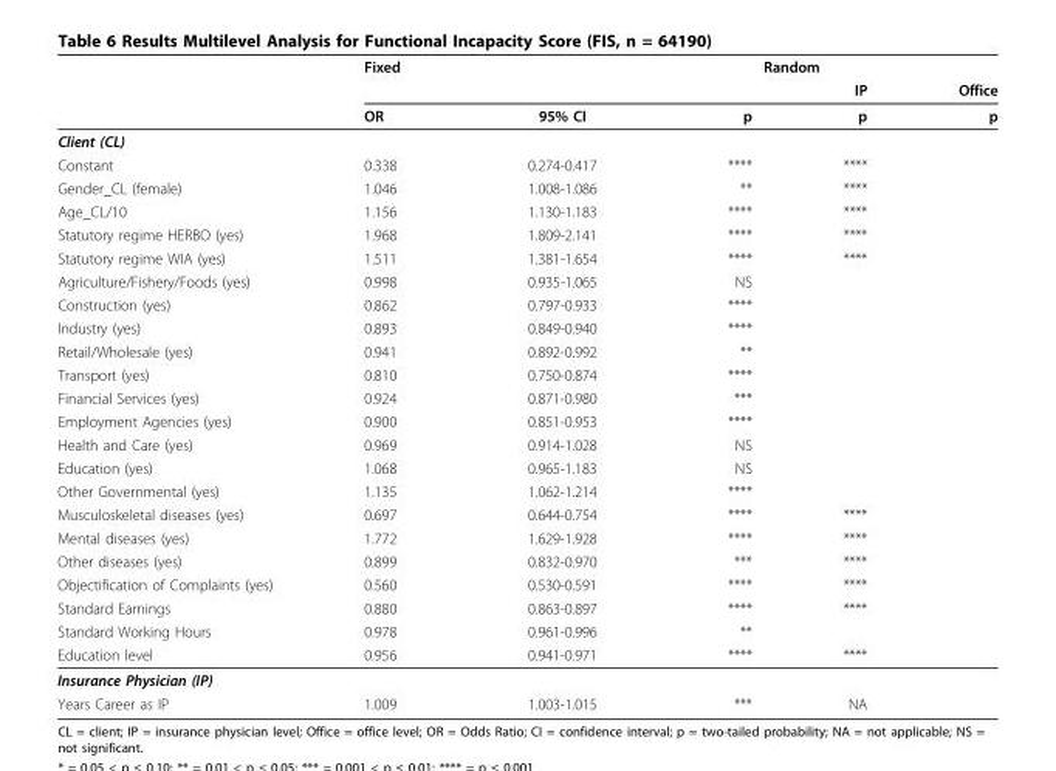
<table><thead><tr><td rowspan="3"></td><td colspan="3">Fixed</td><td colspan="2">Random</td></tr><tr><td rowspan="2">OR</td><td rowspan="2">95% CI</td><td rowspan="2">p</td><td rowspan="2">IP p</td><td rowspan="2">Office p</td></tr><tr></tr></thead><tbody><tr><td colspan="6">Client (CL)</td></tr><tr><td>Constant</td><td>0.338</td><td>0.274-0.417</td><td>****</td><td>****</td><td></td></tr><tr><td>Gender_CL (female)</td><td>1.046</td><td>1.008-1.086</td><td>**</td><td>****</td><td></td></tr><tr><td>Age_CL/10</td><td>1.156</td><td>1.130-1.183</td><td>****</td><td>****</td><td></td></tr><tr><td>Statutory regime HERBO (yes)</td><td>1.968</td><td>1.809-2.141</td><td>****</td><td>****</td><td></td></tr><tr><td>Statutory regime WIA (yes)</td><td>1.511</td><td>1.381-1.654</td><td>****</td><td>****</td><td></td></tr><tr><td>Agriculture/Fishery/Foods (yes)</td><td>0.998</td><td>0.935-1.065</td><td>NS</td><td></td><td></td></tr><tr><td>Construction (yes)</td><td>0.862</td><td>0.797-0.933</td><td>****</td><td></td><td></td></tr><tr><td>Industry (yes)</td><td>0.893</td><td>0.849-0.940</td><td>****</td><td></td><td></td></tr><tr><td>Retail/Wholesale (yes)</td><td>0.941</td><td>0.892-0.992</td><td>**</td><td></td><td></td></tr><tr><td>Transport (yes)</td><td>0.810</td><td>0.750-0.874</td><td>****</td><td></td><td></td></tr><tr><td>Financial Services (yes)</td><td>0.924</td><td>0.871-0.980</td><td>***</td><td></td><td></td></tr><tr><td>Employment Agencies (yes)</td><td>0.900</td><td>0.851-0.953</td><td>****</td><td></td><td></td></tr><tr><td>Health and Care (yes)</td><td>0.969</td><td>0.914-1.028</td><td>NS</td><td></td><td></td></tr><tr><td>Education (yes)</td><td>1.068</td><td>0.965-1.183</td><td>NS</td><td></td><td></td></tr><tr><td>Other Governmental (yes)</td><td>1.135</td><td>1.062-1.214</td><td>****</td><td></td><td></td></tr><tr><td>Musculoskeletal diseases (yes)</td><td>0.697</td><td>0.644-0.754</td><td>****</td><td>****</td><td></td></tr><tr><td>Mental diseases (yes)</td><td>1.772</td><td>1.629-1.928</td><td>****</td><td>****</td><td></td></tr><tr><td>Other diseases (yes)</td><td>0.899</td><td>0.832-0.970</td><td>***</td><td>****</td><td></td></tr><tr><td>Objectification of Complaints (yes)</td><td>0.560</td><td>0.530-0.591</td><td>****</td><td>****</td><td></td></tr><tr><td>Standard Earnings</td><td>0.880</td><td>0.863-0.897</td><td>****</td><td>****</td><td></td></tr><tr><td>Standard Working Hours</td><td>0.978</td><td>0.961-0.996</td><td>**</td><td></td><td></td></tr><tr><td>Education level</td><td>0.956</td><td>0.941-0.971</td><td>****</td><td>****</td><td></td></tr><tr><td colspan="6">Insurance Physician (IP)</td></tr><tr><td>Years Career as IP</td><td>1.009</td><td>1.003-1.015</td><td>***</td><td>NA</td><td></td></tr></tbody></table>